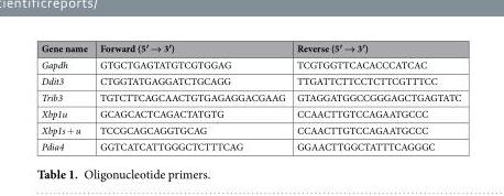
<table><thead><tr><td>Gene name</td><td>Forward (5′ → 3′)</td><td>Reverse (5′ → 3′)</td></tr></thead><tbody><tr><td>Gapdh</td><td>GTGCTGAGTATGTCGTGGAG</td><td>TCGTGGTTCACACCCATCAC</td></tr><tr><td>Ddit3</td><td>CTGGTATGAGGATCTGCAGG</td><td>TTGATTCTTCCTCTTCGTTTCC</td></tr><tr><td>Trib3</td><td>TGTCTTCAGCAACTGTGAGAGGACGAAG</td><td>GTAGGATGGCCGGGAGCTGAGTATC</td></tr><tr><td>Xbp1u</td><td>GCAGCACTCAGACTATGTG</td><td>CCAACTTGTCCAGAATGCCC</td></tr><tr><td>Xbp1s + u</td><td>TCCGCAGCAGGTGCAG</td><td>CCAACTTGTCCAGAATGCCC</td></tr><tr><td>Pdia4</td><td>GGTCATCATTGGGCTCTTTCAG</td><td>GGAACTTGGCTATTTCAGGGC</td></tr></tbody></table>